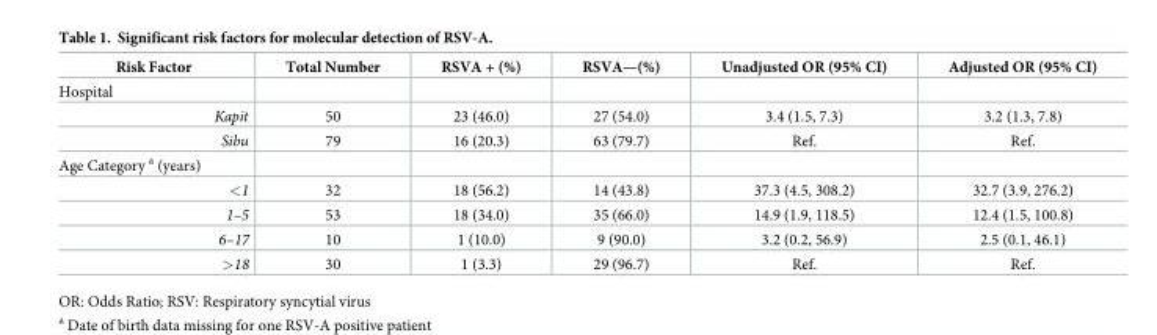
<table><thead><tr><td>Risk Factor</td><td>Total Number</td><td>RSVA + (%)</td><td>RSVA—(%)</td><td>Unadjusted OR (95% CI)</td><td>Adjusted OR (95% CI)</td></tr></thead><tbody><tr><td colspan="6">Hospital</td></tr><tr><td>Kapit</td><td>50</td><td>23 (46.0)</td><td>27 (54.0)</td><td>3.4 (1.5, 7.3)</td><td>3.2 (1.3, 7.8)</td></tr><tr><td>Sibu</td><td>79</td><td>16 (20.3)</td><td>63 (79.7)</td><td>Ref.</td><td>Ref.</td></tr><tr><td colspan="6">Age Category <sup>a</sup> (years)</td></tr><tr><td>&lt;1</td><td>32</td><td>18 (56.2)</td><td>14 (43.8)</td><td>37.3 (4.5, 308.2)</td><td>32.7 (3.9, 276.2)</td></tr><tr><td>1–5</td><td>53</td><td>18 (34.0)</td><td>35 (66.0)</td><td>14.9 (1.9, 118.5)</td><td>12.4 (1.5, 100.8)</td></tr><tr><td>6–17</td><td>10</td><td>1 (10.0)</td><td>9 (90.0)</td><td>3.2 (0.2, 56.9)</td><td>2.5 (0.1, 46.1)</td></tr><tr><td>&gt;18</td><td>30</td><td>1 (3.3)</td><td>29 (96.7)</td><td>Ref.</td><td>Ref.</td></tr></tbody></table>